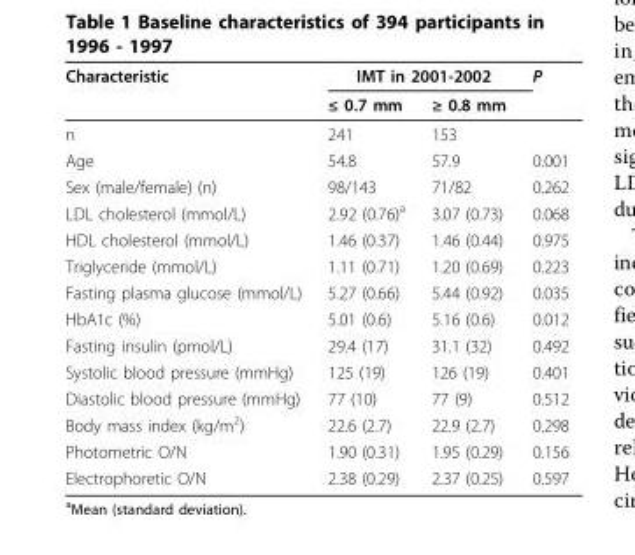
<table><thead><tr><td rowspan="2">Characteristic</td><td colspan="2">IMT in 2001-2002</td><td rowspan="2">P</td></tr><tr><td>≤ 0.7 mm</td><td>≥ 0.8 mm</td></tr></thead><tbody><tr><td>n</td><td>241</td><td>153</td><td></td></tr><tr><td>Age</td><td>54.8</td><td>57.9</td><td>0.001</td></tr><tr><td>Sex (male/female) (n)</td><td>98/143</td><td>71/82</td><td>0.262</td></tr><tr><td>LDL cholesterol (mmol/L)</td><td>2.92 (0.76)<sup>a</sup></td><td>3.07 (0.73)</td><td>0.068</td></tr><tr><td>HDL cholesterol (mmol/L)</td><td>1.46 (0.37)</td><td>1.46 (0.44)</td><td>0.975</td></tr><tr><td>Triglyceride (mmol/L)</td><td>1.11 (0.71)</td><td>1.20 (0.69)</td><td>0.223</td></tr><tr><td>Fasting plasma glucose (mmol/L)</td><td>5.27 (0.66)</td><td>5.44 (0.92)</td><td>0.035</td></tr><tr><td>HbA1c (%)</td><td>5.01 (0.6)</td><td>5.16 (0.6)</td><td>0.012</td></tr><tr><td>Fasting insulin (pmol/L)</td><td>29.4 (17)</td><td>31.1 (32)</td><td>0.492</td></tr><tr><td>Systolic blood pressure (mmHg)</td><td>125 (19)</td><td>126 (19)</td><td>0.401</td></tr><tr><td>Diastolic blood pressure (mmHg)</td><td>77 (10)</td><td>77 (9)</td><td>0.512</td></tr><tr><td>Body mass index (kg/m<sup>2</sup>)</td><td>22.6 (2.7)</td><td>22.9 (2.7)</td><td>0.298</td></tr><tr><td>Photometric O/N</td><td>1.90 (0.31)</td><td>1.95 (0.29)</td><td>0.156</td></tr><tr><td>Electrophoretic O/N</td><td>2.38 (0.29)</td><td>2.37 (0.25)</td><td>0.597</td></tr></tbody></table>